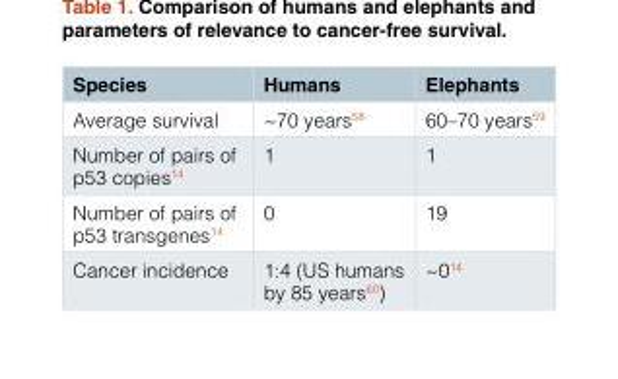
<table><thead><tr><td>Species</td><td>Humans</td><td>Elephants</td></tr></thead><tbody><tr><td>Average survival</td><td>~70 years<sup>58</sup></td><td>60–70 years<sup>59</sup></td></tr><tr><td>Number of pairs of p53 copies<sup>14</sup></td><td>1</td><td>1</td></tr><tr><td>Number of pairs of p53 transgenes<sup>14</sup></td><td>0</td><td>19</td></tr><tr><td>Cancer incidence</td><td>1:4 (US humans by 85 years<sup>60</sup>)</td><td>~0<sup>14</sup></td></tr></tbody></table>